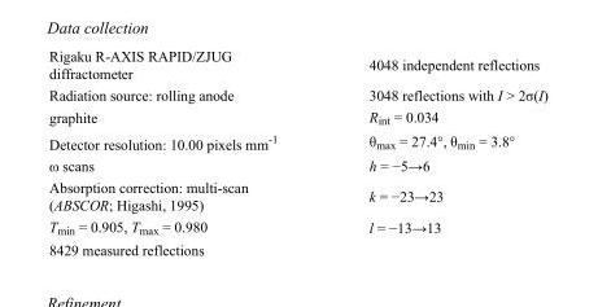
<table><tbody><tr><td>Rigaku R-AXIS RAPID/ZJUG diffractometer</td><td>4048 independent reflections</td></tr><tr><td>Radiation source: rolling anode</td><td>3048 reflections with I &gt; 2σ(I)</td></tr><tr><td>graphite</td><td>R<sub>int</sub> = 0.034</td></tr><tr><td>Detector resolution: 10.00 pixels mm<sup>-1</sup></td><td>θ<sub>max</sub> = 27.4°, θ<sub>min</sub> = 3.8°</td></tr><tr><td>ω scans</td><td>h = −5→6</td></tr><tr><td>Absorption correction: multi-scan (ABSCOR; Higashi, 1995)</td><td>k = −23→23</td></tr><tr><td>T<sub>min</sub> = 0.905, T<sub>max</sub> = 0.980</td><td>l = −13→13</td></tr><tr><td>8429 measured reflections</td><td></td></tr></tbody></table>